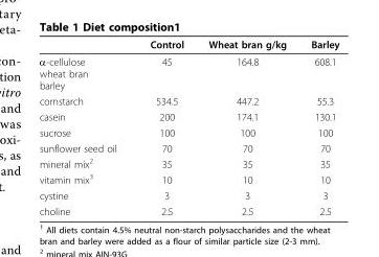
<table><thead><tr><td></td><td>Control</td><td>Wheat bran g/kg</td><td>Barley</td></tr></thead><tbody><tr><td>α-cellulose wheat bran barley</td><td>45</td><td>164.8</td><td>608.1</td></tr><tr><td>cornstarch</td><td>534.5</td><td>447.2</td><td>55.3</td></tr><tr><td>casein</td><td>200</td><td>174.1</td><td>130.1</td></tr><tr><td>sucrose</td><td>100</td><td>100</td><td>100</td></tr><tr><td>sunflower seed oil</td><td>70</td><td>70</td><td>70</td></tr><tr><td>mineral mix<sup>2</sup></td><td>35</td><td>35</td><td>35</td></tr><tr><td>vitamin mix<sup>3</sup></td><td>10</td><td>10</td><td>10</td></tr><tr><td>cystine</td><td>3</td><td>3</td><td>3</td></tr><tr><td>choline</td><td>2.5</td><td>2.5</td><td>2.5</td></tr></tbody></table>